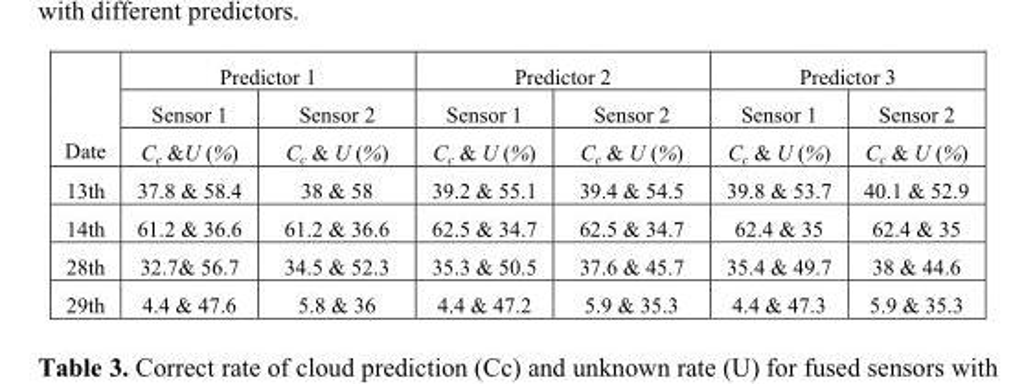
<table><thead><tr><td rowspan="3">Date</td><td colspan="2">Predictor 1</td><td colspan="2">Predictor 2</td><td colspan="2">Predictor 3</td></tr><tr><td rowspan="2">Sensor 1 C<sub>c</sub> &amp;U (%)</td><td rowspan="2">Sensor 2 C<sub>c</sub> &amp; U (%)</td><td rowspan="2">Sensor 1 C<sub>c</sub> &amp; U (%)</td><td rowspan="2">Sensor 2 C<sub>c</sub> &amp; U (%)</td><td rowspan="2">Sensor 1 C<sub>c</sub> &amp; U (%)</td><td rowspan="2">Sensor 2 C<sub>c</sub> &amp; U (%)</td></tr><tr></tr></thead><tbody><tr><td>13th</td><td>37.8 &amp; 58.4</td><td>38 &amp; 58</td><td>39.2 &amp; 55.1</td><td>39.4 &amp; 54.5</td><td>39.8 &amp; 53.7</td><td>40.1 &amp; 52.9</td></tr><tr><td>14th</td><td>61.2 &amp; 36.6</td><td>61.2 &amp; 36.6</td><td>62.5 &amp; 34.7</td><td>62.5 &amp; 34.7</td><td>62.4 &amp; 35</td><td>62.4 &amp; 35</td></tr><tr><td>28th</td><td>32.7&amp; 56.7</td><td>34.5 &amp; 52.3</td><td>35.3 &amp; 50.5</td><td>37.6 &amp; 45.7</td><td>35.4 &amp; 49.7</td><td>38 &amp; 44.6</td></tr><tr><td>29th</td><td>4.4 &amp; 47.6</td><td>5.8 &amp; 36</td><td>4.4 &amp; 47.2</td><td>5.9 &amp; 35.3</td><td>4.4 &amp; 47.3</td><td>5.9 &amp; 35.3</td></tr></tbody></table>